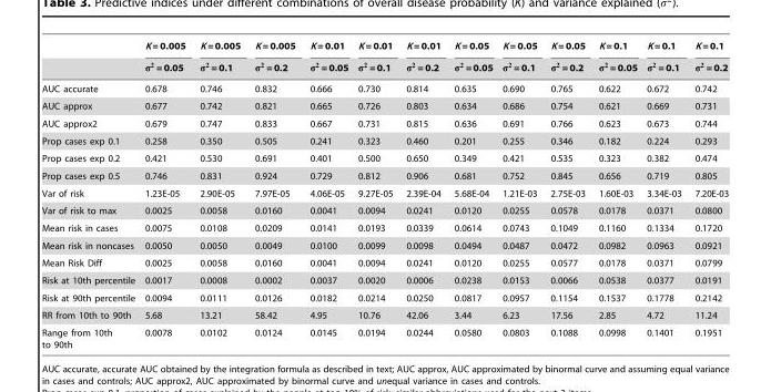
<table><thead><tr><td rowspan="2"></td><td rowspan="2">K = 0.005 s2 = 0.05</td><td rowspan="2">K = 0.005 s2 = 0.1</td><td rowspan="2">K = 0.005 s2 = 0.2</td><td rowspan="2">K = 0.01 s2 = 0.05</td><td rowspan="2">K = 0.01 s2 = 0.1</td><td rowspan="2">K = 0.01 s2 = 0.2</td><td rowspan="2">K = 0.05 s2 = 0.05</td><td rowspan="2">K = 0.05 s2 = 0.1</td><td rowspan="2">K = 0.05 s2 = 0.2</td><td rowspan="2">K = 0.1 s2 = 0.05</td><td rowspan="2">K = 0.1 s2 = 0.1</td><td rowspan="2">K = 0.1 s2 = 0.2</td></tr><tr></tr></thead><tbody><tr><td>AUC accurate</td><td>0.678</td><td>0.746</td><td>0.832</td><td>0.666</td><td>0.730</td><td>0.814</td><td>0.635</td><td>0.690</td><td>0.765</td><td>0.622</td><td>0.672</td><td>0.742</td></tr><tr><td>AUC approx</td><td>0.677</td><td>0.742</td><td>0.821</td><td>0.665</td><td>0.726</td><td>0.803</td><td>0.634</td><td>0.686</td><td>0.754</td><td>0.621</td><td>0.669</td><td>0.731</td></tr><tr><td>AUC approx2</td><td>0.679</td><td>0.747</td><td>0.833</td><td>0.667</td><td>0.731</td><td>0.815</td><td>0.636</td><td>0.691</td><td>0.766</td><td>0.623</td><td>0.673</td><td>0.744</td></tr><tr><td>Prop cases exp 0.1</td><td>0.258</td><td>0.350</td><td>0.505</td><td>0.241</td><td>0.323</td><td>0.460</td><td>0.201</td><td>0.255</td><td>0.346</td><td>0.182</td><td>0.224</td><td>0.293</td></tr><tr><td>Prop cases exp 0.2</td><td>0.421</td><td>0.530</td><td>0.691</td><td>0.401</td><td>0.500</td><td>0.650</td><td>0.349</td><td>0.421</td><td>0.535</td><td>0.323</td><td>0.382</td><td>0.474</td></tr><tr><td>Prop cases exp 0.5</td><td>0.746</td><td>0.831</td><td>0.924</td><td>0.729</td><td>0.812</td><td>0.906</td><td>0.681</td><td>0.752</td><td>0.845</td><td>0.656</td><td>0.719</td><td>0.805</td></tr><tr><td>Var of risk</td><td>1.23E-05</td><td>2.90E-05</td><td>7.97E-05</td><td>4.06E-05</td><td>9.27E-05</td><td>2.39E-04</td><td>5.68E-04</td><td>1.21E-03</td><td>2.75E-03</td><td>1.60E-03</td><td>3.34E-03</td><td>7.20E-03</td></tr><tr><td>Var of risk to max</td><td>0.0025</td><td>0.0058</td><td>0.0160</td><td>0.0041</td><td>0.0094</td><td>0.0241</td><td>0.0120</td><td>0.0255</td><td>0.0578</td><td>0.0178</td><td>0.0371</td><td>0.0800</td></tr><tr><td>Mean risk in cases</td><td>0.0075</td><td>0.0108</td><td>0.0209</td><td>0.0141</td><td>0.0193</td><td>0.0339</td><td>0.0614</td><td>0.0743</td><td>0.1049</td><td>0.1160</td><td>0.1334</td><td>0.1720</td></tr><tr><td>Mean risk in noncases</td><td>0.0050</td><td>0.0050</td><td>0.0049</td><td>0.0100</td><td>0.0099</td><td>0.0098</td><td>0.0494</td><td>0.0487</td><td>0.0472</td><td>0.0982</td><td>0.0963</td><td>0.0921</td></tr><tr><td>Mean Risk Diff</td><td>0.0025</td><td>0.0058</td><td>0.0160</td><td>0.0041</td><td>0.0094</td><td>0.0241</td><td>0.0120</td><td>0.0255</td><td>0.0577</td><td>0.0178</td><td>0.0371</td><td>0.0799</td></tr><tr><td>Risk at 10th percentile</td><td>0.0017</td><td>0.0008</td><td>0.0002</td><td>0.0037</td><td>0.0020</td><td>0.0006</td><td>0.0238</td><td>0.0153</td><td>0.0066</td><td>0.0538</td><td>0.0377</td><td>0.0191</td></tr><tr><td>Risk at 90th percentile</td><td>0.0094</td><td>0.0111</td><td>0.0126</td><td>0.0182</td><td>0.0214</td><td>0.0250</td><td>0.0817</td><td>0.0957</td><td>0.1154</td><td>0.1537</td><td>0.1778</td><td>0.2142</td></tr><tr><td>RR from 10th to 90th</td><td>5.68</td><td>13.21</td><td>58.42</td><td>4.95</td><td>10.76</td><td>42.06</td><td>3.44</td><td>6.23</td><td>17.56</td><td>2.85</td><td>4.72</td><td>11.24</td></tr><tr><td>Range from 10th to 90th</td><td>0.0078</td><td>0.0102</td><td>0.0124</td><td>0.0145</td><td>0.0194</td><td>0.0244</td><td>0.0580</td><td>0.0803</td><td>0.1088</td><td>0.0998</td><td>0.1401</td><td>0.1951</td></tr></tbody></table>